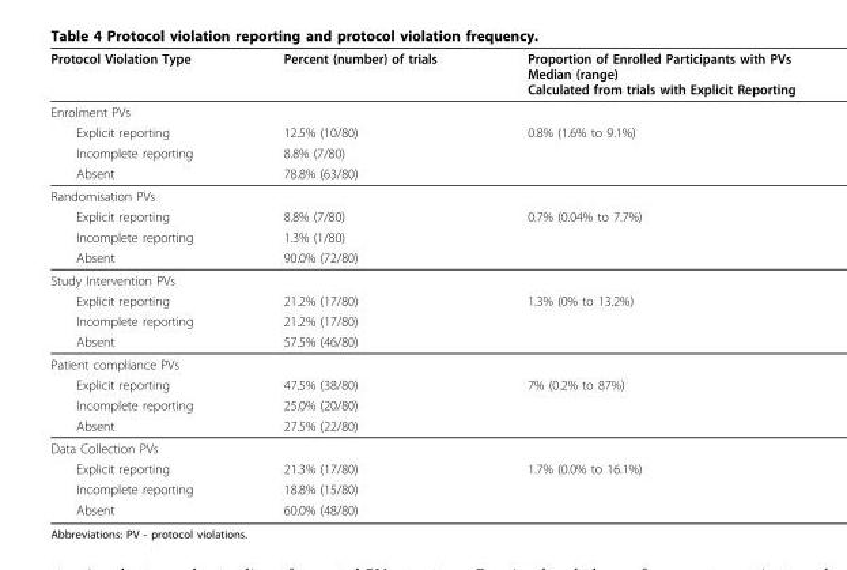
<table><thead><tr><td>Protocol Violation Type</td><td>Percent (number) of trials</td><td>Proportion of Enrolled Participants with PVs Median (range) Calculated from trials with Explicit Reporting</td></tr></thead><tbody><tr><td colspan="3">Enrolment PVs</td></tr><tr><td>Explicit reporting</td><td>12.5% (10/80)</td><td>0.8% (1.6% to 9.1%)</td></tr><tr><td>Incomplete reporting</td><td>8.8% (7/80)</td><td></td></tr><tr><td>Absent</td><td>78.8% (63/80)</td><td></td></tr><tr><td colspan="3">Randomisation PVs</td></tr><tr><td>Explicit reporting</td><td>8.8% (7/80)</td><td>0.7% (0.04% to 7.7%)</td></tr><tr><td>Incomplete reporting</td><td>1.3% (1/80)</td><td></td></tr><tr><td>Absent</td><td>90.0% (72/80)</td><td></td></tr><tr><td colspan="3">Study Intervention PVs</td></tr><tr><td>Explicit reporting</td><td>21.2% (17/80)</td><td>1.3% (0% to 13.2%)</td></tr><tr><td>Incomplete reporting</td><td>21.2% (17/80)</td><td></td></tr><tr><td>Absent</td><td>57.5% (46/80)</td><td></td></tr><tr><td colspan="3">Patient compliance PVs</td></tr><tr><td>Explicit reporting</td><td>47.5% (38/80)</td><td>7% (0.2% to 87%)</td></tr><tr><td>Incomplete reporting</td><td>25.0% (20/80)</td><td></td></tr><tr><td>Absent</td><td>27.5% (22/80)</td><td></td></tr><tr><td colspan="3">Data Collection PVs</td></tr><tr><td>Explicit reporting</td><td>21.3% (17/80)</td><td>1.7% (0.0% to 16.1%)</td></tr><tr><td>Incomplete reporting</td><td>18.8% (15/80)</td><td></td></tr><tr><td>Absent</td><td>60.0% (48/80)</td><td></td></tr></tbody></table>